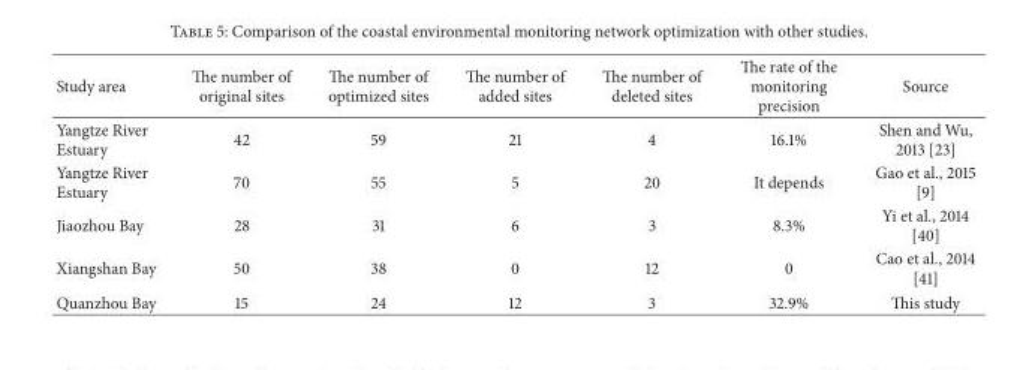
<table><thead><tr><td>Study area</td><td>The number of original sites</td><td>The number of optimized sites</td><td>The number of added sites</td><td>The number of deleted sites</td><td>The rate of the monitoring precision</td><td>Source</td></tr></thead><tbody><tr><td>Yangtze River Estuary</td><td>42</td><td>59</td><td>21</td><td>4</td><td>16.1%</td><td>Shen and Wu, 2013 [23]</td></tr><tr><td>Yangtze River Estuary</td><td>70</td><td>55</td><td>5</td><td>20</td><td>It depends</td><td>Gao et al., 2015 [9]</td></tr><tr><td>Jiaozhou Bay</td><td>28</td><td>31</td><td>6</td><td>3</td><td>8.3%</td><td>Yi et al., 2014 [40]</td></tr><tr><td>Xiangshan Bay</td><td>50</td><td>38</td><td>0</td><td>12</td><td>0</td><td>Cao et al., 2014 [41]</td></tr><tr><td>Quanzhou Bay</td><td>15</td><td>24</td><td>12</td><td>3</td><td>32.9%</td><td>This study</td></tr></tbody></table>